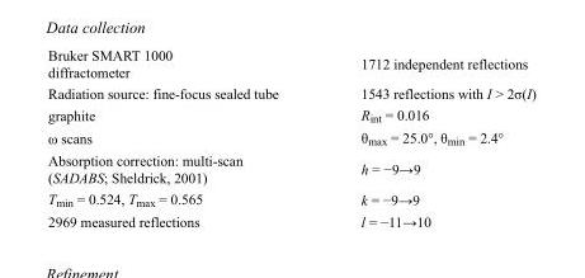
<table><tbody><tr><td>Bruker SMART 1000 diffractometer</td><td>1712 independent reflections</td></tr><tr><td>Radiation source: fine-focus sealed tube</td><td>1543 reflections with I &gt; 2σ(I)</td></tr><tr><td>graphite</td><td>R<sub>int</sub> = 0.016</td></tr><tr><td>ω scans</td><td>θ<sub>max</sub> = 25.0°, θ<sub>min</sub> = 2.4°</td></tr><tr><td>Absorption correction: multi-scan (SADABS; Sheldrick, 2001)</td><td>h = −9→9</td></tr><tr><td>T<sub>min</sub> = 0.524, T<sub>max</sub> = 0.565</td><td>k = −9→9</td></tr><tr><td>2969 measured reflections</td><td>l = −11→10</td></tr></tbody></table>